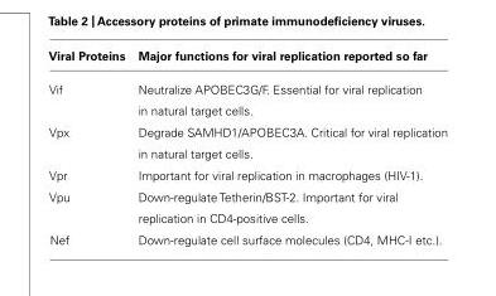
<table><thead><tr><td>Viral Proteins</td><td>Major functions for viral replication reported so far</td></tr></thead><tbody><tr><td>Vif</td><td>Neutralize APOBEC3G/F. Essential for viral replication in natural target cells.</td></tr><tr><td>Vpx</td><td>Degrade SAMHD1/APOBEC3A. Critical for viral replication in natural target cells.</td></tr><tr><td>Vpr</td><td>Important for viral replication in macrophages (HIV-1).</td></tr><tr><td>Vpu</td><td>Down-regulate Tetherin/BST-2. Important for viral replication in CD4-positive cells.</td></tr><tr><td>Nef</td><td>Down-regulate cell surface molecules (CD4, MHC-I etc.).</td></tr></tbody></table>